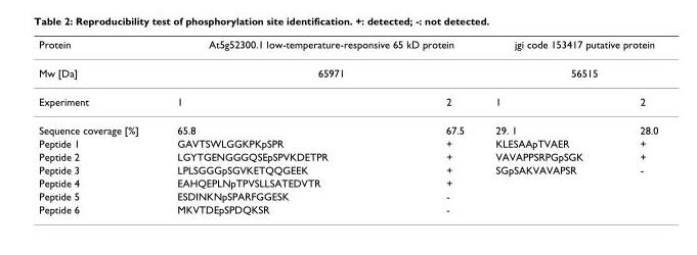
<table><thead><tr><td rowspan="3">Protein Mw [Da] Experiment</td><td rowspan="2" colspan="2">At5g52300.1 low-temperature-responsive 65 kD protein 65971</td><td rowspan="2" colspan="2">jgi code 153417 putative protein 56515</td></tr><tr></tr><tr><td>1</td><td>2</td><td>1</td><td>2</td></tr></thead><tbody><tr><td>Sequence coverage [%]</td><td>65.8</td><td>67.5</td><td>29. 1</td><td>28.0</td></tr><tr><td>Peptide 1</td><td>GAVTSWLGGKPKpSPR</td><td>+</td><td>KLESAApTVAER</td><td>+</td></tr><tr><td>Peptide 2</td><td>LGYTGENGGGQSEpSPVKDETPR</td><td>+</td><td>VAVAPPSRPGpSGK</td><td>+</td></tr><tr><td>Peptide 3</td><td>LPLSGGGpSGVKETQQGEEK</td><td>+</td><td>SGpSAKVAVAPSR</td><td>-</td></tr><tr><td>Peptide 4</td><td>EAHQEPLNpTPVSLLSATEDVTR</td><td>+</td><td></td><td></td></tr><tr><td>Peptide 5</td><td>ESDINKNpSPARFGGESK</td><td>-</td><td></td><td></td></tr><tr><td>Peptide 6</td><td>MKVTDEpSPDQKSR</td><td>-</td><td></td><td></td></tr></tbody></table>